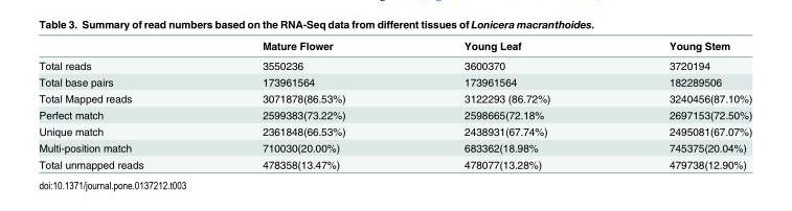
<table><thead><tr><td></td><td>Mature Flower</td><td>Young Leaf</td><td>Young Stem</td></tr></thead><tbody><tr><td>Total reads</td><td>3550236</td><td>3600370</td><td>3720194</td></tr><tr><td>Total base pairs</td><td>173961564</td><td>173961564</td><td>182289506</td></tr><tr><td>Total Mapped reads</td><td>3071878(86.53%)</td><td>3122293 (86.72%)</td><td>3240456(87.10%)</td></tr><tr><td>Perfect match</td><td>2599383(73.22%)</td><td>2598665(72.18%</td><td>2697153(72.50%)</td></tr><tr><td>Unique match</td><td>2361848(66.53%)</td><td>2438931(67.74%)</td><td>2495081(67.07%)</td></tr><tr><td>Multi-position match</td><td>710030(20.00%)</td><td>683362(18.98%</td><td>745375(20.04%)</td></tr><tr><td>Total unmapped reads</td><td>478358(13.47%)</td><td>478077(13.28%)</td><td>479738(12.90%)</td></tr></tbody></table>